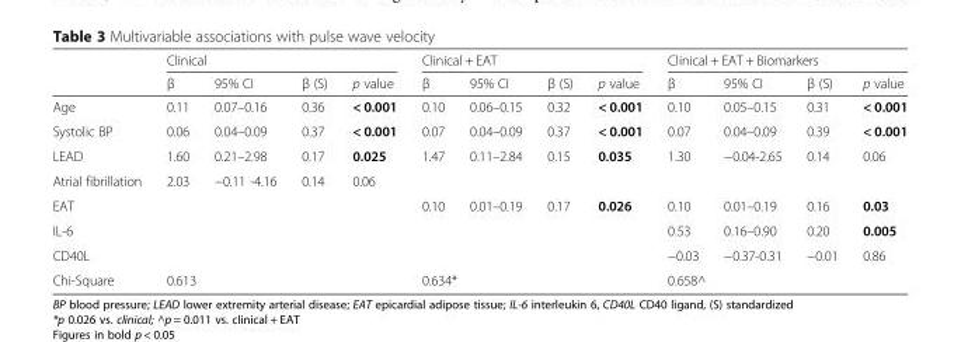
<table><thead><tr><td rowspan="2"></td><td colspan="4">Clinical</td><td colspan="4">Clinical + EAT</td><td colspan="4">Clinical + EAT + Biomarkers</td></tr><tr><td>β</td><td>95% CI</td><td>β (S)</td><td>p value</td><td>β</td><td>95% CI</td><td>β (S)</td><td>p value</td><td>β</td><td>95% CI</td><td>β (S)</td><td>p value</td></tr></thead><tbody><tr><td>Age</td><td>0.11</td><td>0.07–0.16</td><td>0.36</td><td>&lt; 0.001</td><td>0.10</td><td>0.06–0.15</td><td>0.32</td><td>&lt; 0.001</td><td>0.10</td><td>0.05–0.15</td><td>0.31</td><td>&lt; 0.001</td></tr><tr><td>Systolic BP</td><td>0.06</td><td>0.04–0.09</td><td>0.37</td><td>&lt; 0.001</td><td>0.07</td><td>0.04–0.09</td><td>0.37</td><td>&lt; 0.001</td><td>0.07</td><td>0.04–0.09</td><td>0.39</td><td>&lt; 0.001</td></tr><tr><td>LEAD</td><td>1.60</td><td>0.21–2.98</td><td>0.17</td><td>0.025</td><td>1.47</td><td>0.11–2.84</td><td>0.15</td><td>0.035</td><td>1.30</td><td>−0.04-2.65</td><td>0.14</td><td>0.06</td></tr><tr><td>Atrial fibrillation</td><td>2.03</td><td>−0.11 -4.16</td><td>0.14</td><td>0.06</td><td></td><td></td><td></td><td></td><td></td><td></td><td></td><td></td></tr><tr><td>EAT</td><td></td><td></td><td colspan="2"></td><td>0.10</td><td>0.01–0.19</td><td>0.17</td><td>0.026</td><td>0.10</td><td>0.01–0.19</td><td>0.16</td><td>0.03</td></tr><tr><td>IL-6</td><td></td><td></td><td colspan="2"></td><td></td><td></td><td colspan="2"></td><td>0.53</td><td>0.16–0.90</td><td>0.20</td><td>0.005</td></tr><tr><td>CD40L</td><td></td><td></td><td colspan="2"></td><td></td><td></td><td colspan="2"></td><td>−0.03</td><td>−0.37-0.31</td><td>−0.01</td><td>0.86</td></tr><tr><td>Chi-Square</td><td colspan="4">0.613</td><td colspan="4">0.634*</td><td colspan="4">0.658^</td></tr></tbody></table>